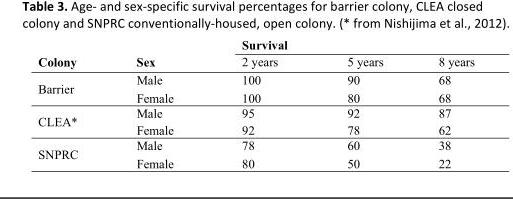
<table><thead><tr><td rowspan="2">Colony</td><td rowspan="2">Sex</td><td colspan="3">Survival</td></tr><tr><td>2 years</td><td>5 years</td><td>8 years</td></tr></thead><tbody><tr><td rowspan="2">Barrier</td><td>Male</td><td>100</td><td>90</td><td>68</td></tr><tr><td>Female</td><td>100</td><td>80</td><td>68</td></tr><tr><td rowspan="2">CLEA*</td><td>Male</td><td>95</td><td>92</td><td>87</td></tr><tr><td>Female</td><td>92</td><td>78</td><td>62</td></tr><tr><td rowspan="2">SNPRC</td><td>Male</td><td>78</td><td>60</td><td>38</td></tr><tr><td>Female</td><td>80</td><td>50</td><td>22</td></tr></tbody></table>